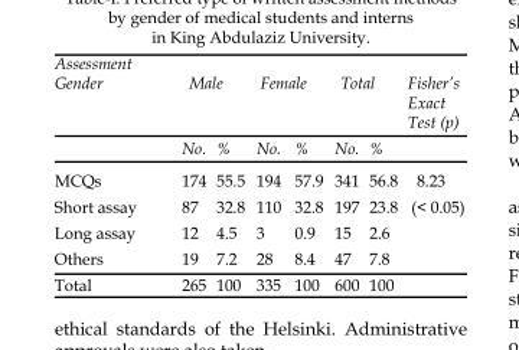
<table><thead><tr><td rowspan="2">Assessment Gender</td><td colspan="2">Male</td><td colspan="2">Female</td><td colspan="2">Total</td><td rowspan="2">Fisher’s Exact Test (p)</td></tr><tr><td>No.</td><td>%</td><td>No.</td><td>%</td><td>No.</td><td>%</td></tr></thead><tbody><tr><td>MCQs</td><td>174</td><td>55.5</td><td>194</td><td>57.9</td><td>341</td><td>56.8</td><td>8.23</td></tr><tr><td>Short assay</td><td>87</td><td>32.8</td><td>110</td><td>32.8</td><td>197</td><td>23.8</td><td>(&lt; 0.05)</td></tr><tr><td>Long assay</td><td>12</td><td>4.5</td><td>3</td><td>0.9</td><td>15</td><td>2.6</td><td></td></tr><tr><td>Others</td><td>19</td><td>7.2</td><td>28</td><td>8.4</td><td>47</td><td>7.8</td><td></td></tr><tr><td>Total</td><td>265</td><td>100</td><td>335</td><td>100</td><td>600</td><td>100</td><td></td></tr></tbody></table>